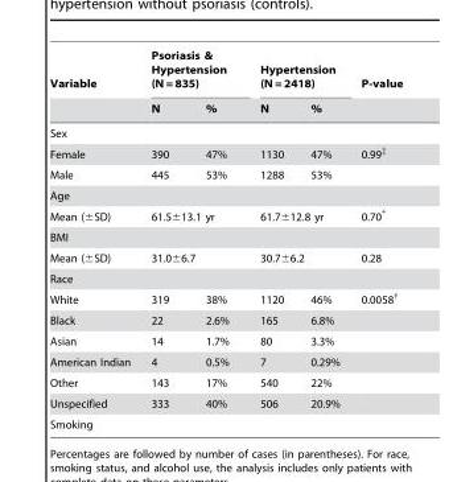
<table><thead><tr><td rowspan="2">Variable</td><td colspan="2">Psoriasis &amp; Hypertension (N = 835)</td><td colspan="2">Hypertension (N = 2418)</td><td rowspan="2">P-value</td></tr><tr><td>N</td><td>%</td><td>N</td><td>%</td></tr></thead><tbody><tr><td colspan="6">Sex</td></tr><tr><td>Female</td><td>390</td><td>47%</td><td>1130</td><td>47%</td><td>0.99‡</td></tr><tr><td>Male</td><td>445</td><td>53%</td><td>1288</td><td>53%</td><td></td></tr><tr><td colspan="6">Age</td></tr><tr><td>Mean (±SD)</td><td colspan="2">61.5±13.1 yr</td><td colspan="2">61.7±12.8 yr</td><td>0.70*</td></tr><tr><td colspan="6">BMI</td></tr><tr><td>Mean (±SD)</td><td colspan="2">31.0±6.7</td><td colspan="2">30.7±6.2</td><td>0.28</td></tr><tr><td colspan="6">Race</td></tr><tr><td>White</td><td>319</td><td>38%</td><td>1120</td><td>46%</td><td>0.0058†</td></tr><tr><td>Black</td><td>22</td><td>2.6%</td><td>165</td><td>6.8%</td><td></td></tr><tr><td>Asian</td><td>14</td><td>1.7%</td><td>80</td><td>3.3%</td><td></td></tr><tr><td>American Indian</td><td>4</td><td>0.5%</td><td>7</td><td>0.29%</td><td></td></tr><tr><td>Other</td><td>143</td><td>17%</td><td>540</td><td>22%</td><td></td></tr><tr><td>Unspecified</td><td>333</td><td>40%</td><td>506</td><td>20.9%</td><td></td></tr><tr><td colspan="6">Smoking</td></tr></tbody></table>